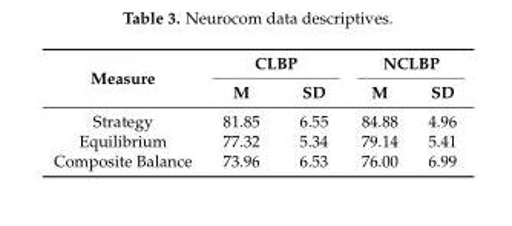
<table><thead><tr><td rowspan="2">Measure</td><td colspan="2">CLBP</td><td colspan="2">NCLBP</td></tr><tr><td>M</td><td>SD</td><td>M</td><td>SD</td></tr></thead><tbody><tr><td>Strategy</td><td>81.85</td><td>6.55</td><td>84.88</td><td>4.96</td></tr><tr><td>Equilibrium</td><td>77.32</td><td>5.34</td><td>79.14</td><td>5.41</td></tr><tr><td>Composite Balance</td><td>73.96</td><td>6.53</td><td>76.00</td><td>6.99</td></tr></tbody></table>